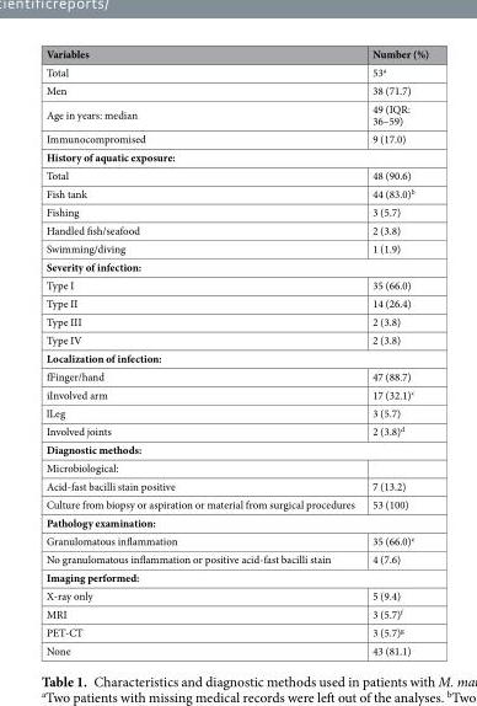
<table><thead><tr><td>Variables</td><td>Number (%)</td></tr></thead><tbody><tr><td>Total</td><td>53<sup>a</sup></td></tr><tr><td>Men</td><td>38 (71.7)</td></tr><tr><td>Age in years: median</td><td>49 (IQR: 36–59)</td></tr><tr><td>Immunocompromised</td><td>9 (17.0)</td></tr><tr><td colspan="2">History of aquatic exposure:</td></tr><tr><td>Total</td><td>48 (90.6)</td></tr><tr><td>Fish tank</td><td>44 (83.0)<sup>b</sup></td></tr><tr><td>Fishing</td><td>3 (5.7)</td></tr><tr><td>Handled fish/seafood</td><td>2 (3.8)</td></tr><tr><td>Swimming/diving</td><td>1 (1.9)</td></tr><tr><td colspan="2">Severity of infection:</td></tr><tr><td>Type I</td><td>35 (66.0)</td></tr><tr><td>Type II</td><td>14 (26.4)</td></tr><tr><td>Type III</td><td>2 (3.8)</td></tr><tr><td>Type IV</td><td>2 (3.8)</td></tr><tr><td colspan="2">Localization of infection:</td></tr><tr><td>fFinger/hand</td><td>47 (88.7)</td></tr><tr><td>iInvolved arm</td><td>17 (32.1)<sup>c</sup></td></tr><tr><td>lLeg</td><td>3 (5.7)</td></tr><tr><td>Involved joints</td><td>2 (3.8)<sup>d</sup></td></tr><tr><td colspan="2">Diagnostic methods:</td></tr><tr><td colspan="2">Microbiological:</td></tr><tr><td>Acid-fast bacilli stain positive</td><td>7 (13.2)</td></tr><tr><td>Culture from biopsy or aspiration or material from surgical procedures</td><td>53 (100)</td></tr><tr><td colspan="2">Pathology examination:</td></tr><tr><td>Granulomatous inflammation</td><td>35 (66.0)<sup>e</sup></td></tr><tr><td>No granulomatous inflammation or positive acid-fast bacilli stain</td><td>4 (7.6)</td></tr><tr><td colspan="2">Imaging performed:</td></tr><tr><td>X-ray only</td><td>5 (9.4)</td></tr><tr><td>MRI</td><td>3 (5.7)<sup>f</sup></td></tr><tr><td>PET-CT</td><td>3 (5.7)<sup>g</sup></td></tr><tr><td>None</td><td>43 (81.1)</td></tr></tbody></table>